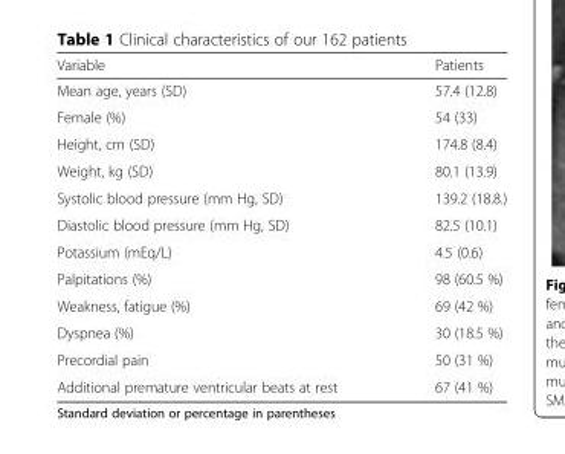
<table><thead><tr><td>Variable</td><td>Patients</td></tr></thead><tbody><tr><td>Mean age, years (SD)</td><td>57.4 (12.8)</td></tr><tr><td>Female (%)</td><td>54 (33)</td></tr><tr><td>Height, cm (SD)</td><td>174.8 (8.4)</td></tr><tr><td>Weight, kg (SD)</td><td>80.1 (13.9)</td></tr><tr><td>Systolic blood pressure (mm Hg, SD)</td><td>139.2 (18.8.)</td></tr><tr><td>Diastolic blood pressure (mm Hg, SD)</td><td>82.5 (10.1)</td></tr><tr><td>Potassium (mEq/L)</td><td>4.5 (0.6)</td></tr><tr><td>Palpitations (%)</td><td>98 (60.5 %)</td></tr><tr><td>Weakness, fatigue (%)</td><td>69 (42 %)</td></tr><tr><td>Dyspnea (%)</td><td>30 (18.5 %)</td></tr><tr><td>Precordial pain</td><td>50 (31 %)</td></tr><tr><td>Additional premature ventricular beats at rest</td><td>67 (41 %)</td></tr></tbody></table>